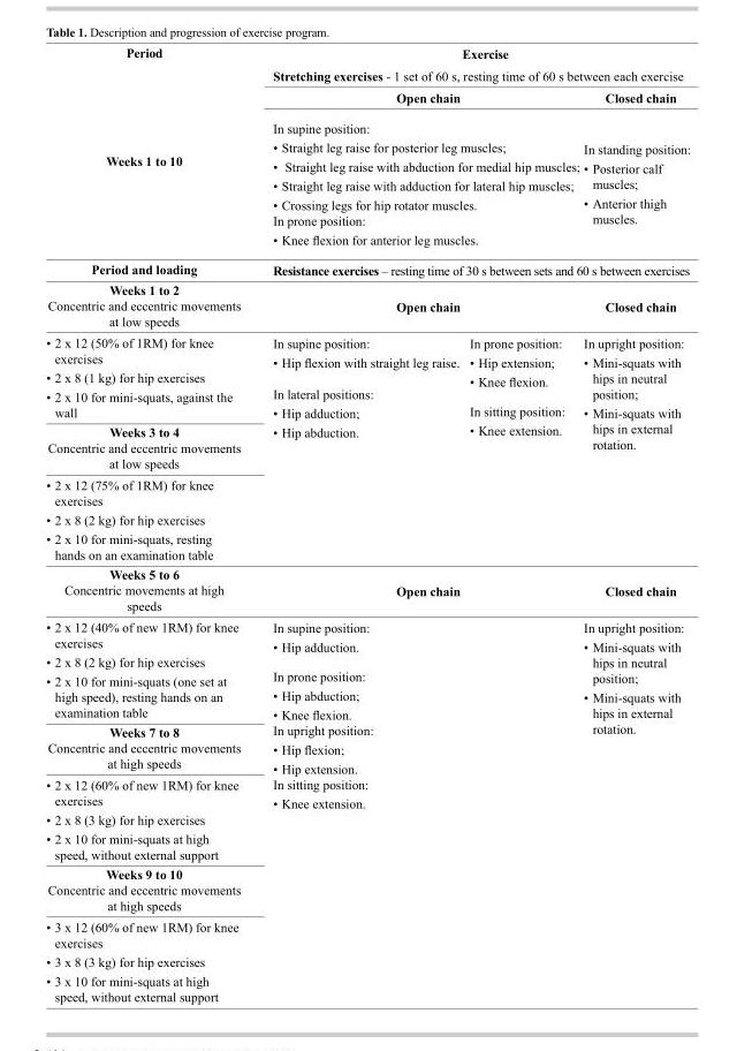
<table><thead><tr><td>Period</td><td colspan="3">Exercise</td></tr></thead><tbody><tr><td rowspan="3">Weeks 1 to 10</td><td colspan="3">Stretching exercises - 1 set of 60 s, resting time of 60 s between each exercise</td></tr><tr><td colspan="2">Open chain</td><td>Closed chain</td></tr><tr><td colspan="2">In supine position: • Straight leg raise for posterior leg muscles; • Straight leg raise with abduction for medial hip muscles; • Straight leg raise with adduction for lateral hip muscles; • Crossing legs for hip rotator muscles. In prone position: • Knee flexion for anterior leg muscles.</td><td>In standing position: • Posterior calf muscles; • Anterior thigh muscles.</td></tr><tr><td>Period and loading</td><td colspan="3">Resistance exercises – resting time of 30 s between sets and 60 s between exercises</td></tr><tr><td>Weeks 1 to 2 Concentric and eccentric movements at low speeds</td><td colspan="2">Open chain</td><td>Closed chain</td></tr><tr><td>• 2 x 12 (50% of 1RM) for knee exercises • 2 x 8 (1 kg) for hip exercises • 2 x 10 for mini-squats, against the wall</td><td rowspan="3">In supine position: • Hip flexion with straight leg raise. In lateral positions: • Hip adduction; • Hip abduction.</td><td rowspan="3">In prone position: • Hip extension; • Knee flexion. In sitting position: • Knee extension.</td><td rowspan="3">In upright position: • Mini-squats with hips in neutral position; • Mini-squats with hips in external rotation.</td></tr><tr><td>Weeks 3 to 4 Concentric and eccentric movements at low speeds</td></tr><tr><td>• 2 x 12 (75% of 1RM) for knee exercises • 2 x 8 (2 kg) for hip exercises • 2 x 10 for mini-squats, resting hands on an examination table</td></tr><tr><td>Weeks 5 to 6 Concentric movements at high speeds</td><td colspan="2">Open chain</td><td>Closed chain</td></tr><tr><td>• 2 x 12 (40% of new 1RM) for knee exercises • 2 x 8 (2 kg) for hip exercises • 2 x 10 for mini-squats (one set at high speed), resting hands on an examination table</td><td rowspan="5" colspan="2">In supine position: • Hip adduction. In prone position: • Hip abduction; • Knee flexion. In upright position: • Hip flexion; • Hip extension. In sitting position: • Knee extension.</td><td rowspan="5">In upright position: • Mini-squats with hips in neutral position; • Mini-squats with hips in external rotation.</td></tr><tr><td>Weeks 7 to 8 Concentric and eccentric movements at high speeds</td></tr><tr><td>• 2 x 12 (60% of new 1RM) for knee exercises • 2 x 8 (3 kg) for hip exercises • 2 x 10 for mini-squats at high speed, without external support</td></tr><tr><td>Weeks 9 to 10 Concentric and eccentric movements at high speeds</td></tr><tr><td>• 3 x 12 (60% of new 1RM) for knee exercises • 3 x 8 (3 kg) for hip exercises • 3 x 10 for mini-squats at high speed, without external support</td></tr></tbody></table>